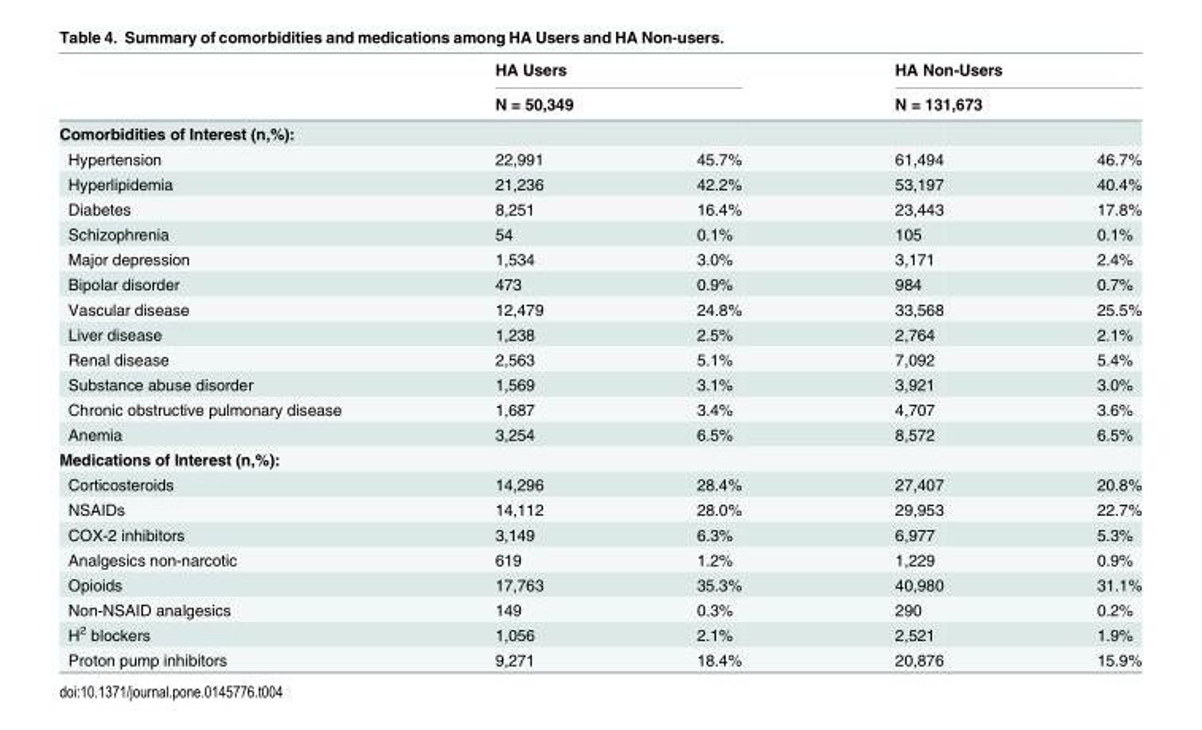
<table><thead><tr><td rowspan="3">Comorbidities of Interest (n,%):</td><td rowspan="2" colspan="2">HA Users N = 50,349</td><td rowspan="2" colspan="2">HA Non-Users N = 131,673</td></tr><tr></tr><tr><td></td><td></td><td></td><td></td></tr></thead><tbody><tr><td>Hypertension</td><td>22,991</td><td>45.7%</td><td>61,494</td><td>46.7%</td></tr><tr><td>Hyperlipidemia</td><td>21,236</td><td>42.2%</td><td>53,197</td><td>40.4%</td></tr><tr><td>Diabetes</td><td>8,251</td><td>16.4%</td><td>23,443</td><td>17.8%</td></tr><tr><td>Schizophrenia</td><td>54</td><td>0.1%</td><td>105</td><td>0.1%</td></tr><tr><td>Major depression</td><td>1,534</td><td>3.0%</td><td>3,171</td><td>2.4%</td></tr><tr><td>Bipolar disorder</td><td>473</td><td>0.9%</td><td>984</td><td>0.7%</td></tr><tr><td>Vascular disease</td><td>12,479</td><td>24.8%</td><td>33,568</td><td>25.5%</td></tr><tr><td>Liver disease</td><td>1,238</td><td>2.5%</td><td>2,764</td><td>2.1%</td></tr><tr><td>Renal disease</td><td>2,563</td><td>5.1%</td><td>7,092</td><td>5.4%</td></tr><tr><td>Substance abuse disorder</td><td>1,569</td><td>3.1%</td><td>3,921</td><td>3.0%</td></tr><tr><td>Chronic obstructive pulmonary disease</td><td>1,687</td><td>3.4%</td><td>4,707</td><td>3.6%</td></tr><tr><td>Anemia</td><td>3,254</td><td>6.5%</td><td>8,572</td><td>6.5%</td></tr><tr><td colspan="5">Medications of Interest (n,%):</td></tr><tr><td>Corticosteroids</td><td>14,296</td><td>28.4%</td><td>27,407</td><td>20.8%</td></tr><tr><td>NSAIDs</td><td>14,112</td><td>28.0%</td><td>29,953</td><td>22.7%</td></tr><tr><td>COX-2 inhibitors</td><td>3,149</td><td>6.3%</td><td>6,977</td><td>5.3%</td></tr><tr><td>Analgesics non-narcotic</td><td>619</td><td>1.2%</td><td>1,229</td><td>0.9%</td></tr><tr><td>Opioids</td><td>17,763</td><td>35.3%</td><td>40,980</td><td>31.1%</td></tr><tr><td>Non-NSAID analgesics</td><td>149</td><td>0.3%</td><td>290</td><td>0.2%</td></tr><tr><td>H<sup>2</sup> blockers</td><td>1,056</td><td>2.1%</td><td>2,521</td><td>1.9%</td></tr><tr><td>Proton pump inhibitors</td><td>9,271</td><td>18.4%</td><td>20,876</td><td>15.9%</td></tr></tbody></table>